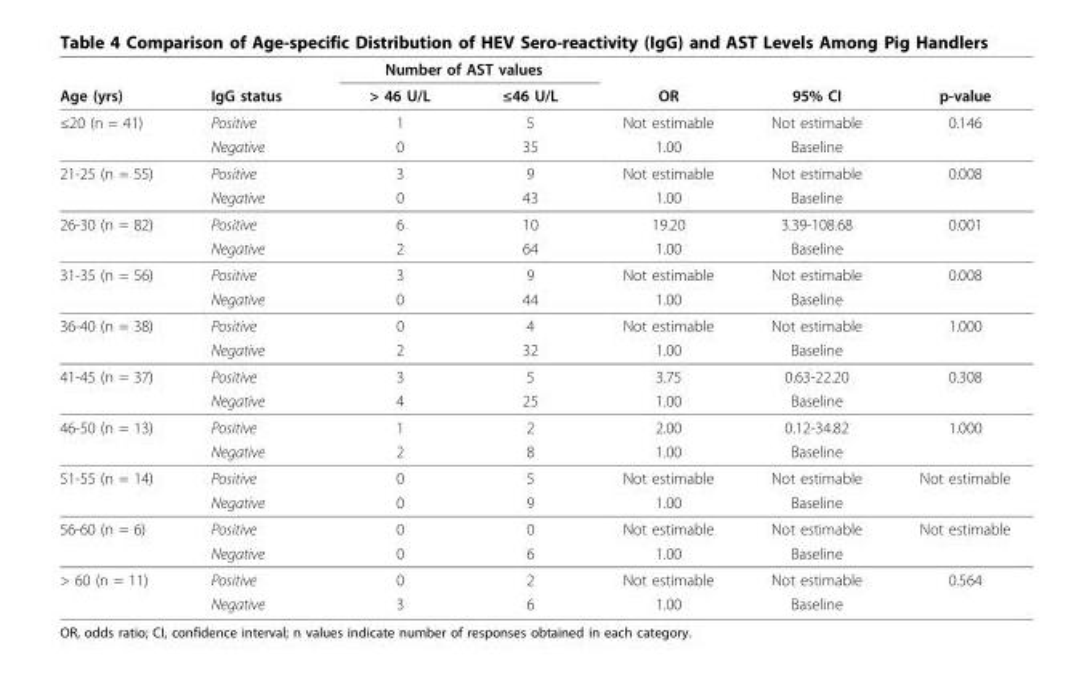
<table><thead><tr><td rowspan="2">Age (yrs)</td><td rowspan="2">IgG status</td><td colspan="2">Number of AST values</td><td rowspan="2">OR</td><td rowspan="2">95% CI</td><td rowspan="2">p-value</td></tr><tr><td>&gt; 46 U/L</td><td>≤46 U/L</td></tr></thead><tbody><tr><td rowspan="2">≤20 (n = 41)</td><td>Positive</td><td>1</td><td>5</td><td>Not estimable</td><td>Not estimable</td><td>0.146</td></tr><tr><td>Negative</td><td>0</td><td>35</td><td>1.00</td><td>Baseline</td><td></td></tr><tr><td rowspan="2">21-25 (n = 55)</td><td>Positive</td><td>3</td><td>9</td><td>Not estimable</td><td>Not estimable</td><td>0.008</td></tr><tr><td>Negative</td><td>0</td><td>43</td><td>1.00</td><td>Baseline</td><td></td></tr><tr><td rowspan="2">26-30 (n = 82)</td><td>Positive</td><td>6</td><td>10</td><td>19.20</td><td>3.39-108.68</td><td>0.001</td></tr><tr><td>Negative</td><td>2</td><td>64</td><td>1.00</td><td>Baseline</td><td></td></tr><tr><td rowspan="2">31-35 (n = 56)</td><td>Positive</td><td>3</td><td>9</td><td>Not estimable</td><td>Not estimable</td><td>0.008</td></tr><tr><td>Negative</td><td>0</td><td>44</td><td>1.00</td><td>Baseline</td><td></td></tr><tr><td rowspan="2">36-40 (n = 38)</td><td>Positive</td><td>0</td><td>4</td><td>Not estimable</td><td>Not estimable</td><td>1.000</td></tr><tr><td>Negative</td><td>2</td><td>32</td><td>1.00</td><td>Baseline</td><td></td></tr><tr><td rowspan="2">41-45 (n = 37)</td><td>Positive</td><td>3</td><td>5</td><td>3.75</td><td>0.63-22.20</td><td>0.308</td></tr><tr><td>Negative</td><td>4</td><td>25</td><td>1.00</td><td>Baseline</td><td></td></tr><tr><td rowspan="2">46-50 (n = 13)</td><td>Positive</td><td>1</td><td>2</td><td>2.00</td><td>0.12-34.82</td><td>1.000</td></tr><tr><td>Negative</td><td>2</td><td>8</td><td>1.00</td><td>Baseline</td><td></td></tr><tr><td rowspan="2">51-55 (n = 14)</td><td>Positive</td><td>0</td><td>5</td><td>Not estimable</td><td>Not estimable</td><td>Not estimable</td></tr><tr><td>Negative</td><td>0</td><td>9</td><td>1.00</td><td>Baseline</td><td></td></tr><tr><td rowspan="2">56-60 (n = 6)</td><td>Positive</td><td>0</td><td>0</td><td>Not estimable</td><td>Not estimable</td><td>Not estimable</td></tr><tr><td>Negative</td><td>0</td><td>6</td><td>1.00</td><td>Baseline</td><td></td></tr><tr><td rowspan="2">&gt; 60 (n = 11)</td><td>Positive</td><td>0</td><td>2</td><td>Not estimable</td><td>Not estimable</td><td>0.564</td></tr><tr><td>Negative</td><td>3</td><td>6</td><td>1.00</td><td>Baseline</td><td></td></tr></tbody></table>